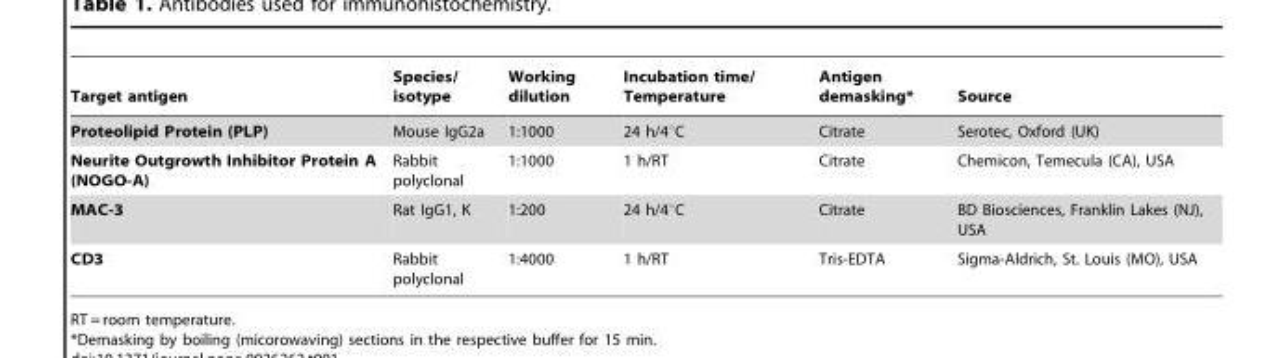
<table><thead><tr><td>Target antigen</td><td>Species/ isotype</td><td>Working dilution</td><td>Incubation time/ Temperature</td><td>Antigen demasking*</td><td>Source</td></tr></thead><tbody><tr><td>Proteolipid Protein (PLP)</td><td>Mouse IgG2a</td><td>1:1000</td><td>24 h/4°C</td><td>Citrate</td><td>Serotec, Oxford (UK)</td></tr><tr><td>Neurite Outgrowth Inhibitor Protein A (NOGO-A)</td><td>Rabbit polyclonal</td><td>1:1000</td><td>1 h/RT</td><td>Citrate</td><td>Chemicon, Temecula (CA), USA</td></tr><tr><td>MAC-3</td><td>Rat IgG1, K</td><td>1:200</td><td>24 h/4°C</td><td>Citrate</td><td>BD Biosciences, Franklin Lakes (NJ), USA</td></tr><tr><td>CD3</td><td>Rabbit polyclonal</td><td>1:4000</td><td>1 h/RT</td><td>Tris-EDTA</td><td>Sigma-Aldrich, St. Louis (MO), USA</td></tr></tbody></table>